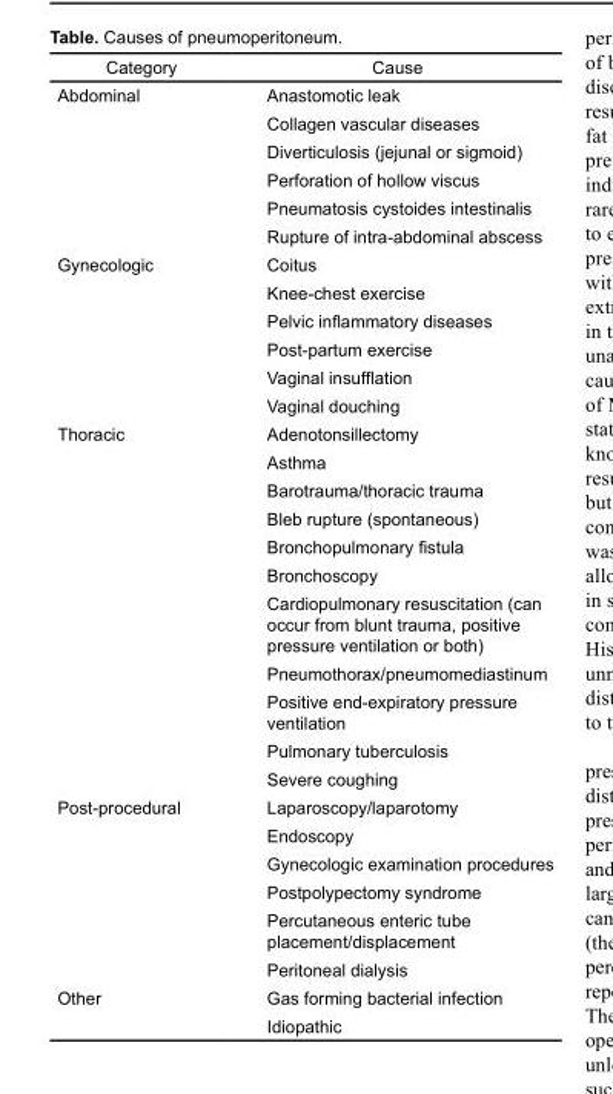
<table><thead><tr><td>Category</td><td>Cause</td></tr></thead><tbody><tr><td rowspan="6">Abdominal</td><td>Anastomotic leak</td></tr><tr><td>Collagen vascular diseases</td></tr><tr><td>Diverticulosis (jejunal or sigmoid)</td></tr><tr><td>Perforation of hollow viscus</td></tr><tr><td>Pneumatosis cystoides intestinalis</td></tr><tr><td>Rupture of intra-abdominal abscess</td></tr><tr><td rowspan="6">Gynecologic</td><td>Coitus</td></tr><tr><td>Knee-chest exercise</td></tr><tr><td>Pelvic inflammatory diseases</td></tr><tr><td>Post-partum exercise</td></tr><tr><td>Vaginal insufflation</td></tr><tr><td>Vaginal douching</td></tr><tr><td rowspan="11">Thoracic</td><td>Adenotonsillectomy</td></tr><tr><td>Asthma</td></tr><tr><td>Barotrauma/thoracic trauma</td></tr><tr><td>Bleb rupture (spontaneous)</td></tr><tr><td>Bronchopulmonary fistula</td></tr><tr><td>Bronchoscopy</td></tr><tr><td>Cardiopulmonary resuscitation (can occur from blunt trauma, positive pressure ventilation or both)</td></tr><tr><td>Pneumothorax/pneumomediastinum</td></tr><tr><td>Positive end-expiratory pressure ventilation</td></tr><tr><td>Pulmonary tuberculosis</td></tr><tr><td>Severe coughing</td></tr><tr><td rowspan="6">Post-procedural</td><td>Laparoscopy/laparotomy</td></tr><tr><td>Endoscopy</td></tr><tr><td>Gynecologic examination procedures</td></tr><tr><td>Postpolypectomy syndrome</td></tr><tr><td>Percutaneous enteric tube placement/displacement</td></tr><tr><td>Peritoneal dialysis</td></tr><tr><td rowspan="2">Other</td><td>Gas forming bacterial infection</td></tr><tr><td>Idiopathic</td></tr></tbody></table>